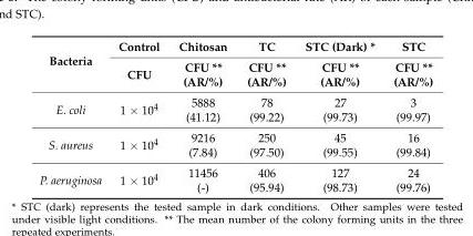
<table><thead><tr><td rowspan="2">Bacteria</td><td rowspan="2">Control CFU</td><td rowspan="2">Chitosan CFU ** (AR/%)</td><td rowspan="2">TC CFU ** (AR/%)</td><td rowspan="2">STC (Dark) * CFU ** (AR/%)</td><td rowspan="2">STC CFU ** (AR/%)</td></tr><tr></tr></thead><tbody><tr><td>E. coli</td><td>1 × 10<sup>4</sup></td><td>5888 (41.12)</td><td>78 (99.22)</td><td>27 (99.73)</td><td>3 (99.97)</td></tr><tr><td>S. aureus</td><td>1 × 10<sup>4</sup></td><td>9216 (7.84)</td><td>250 (97.50)</td><td>45 (99.55)</td><td>16 (99.84)</td></tr><tr><td>P. aeruginosa</td><td>1 × 10<sup>4</sup></td><td>11456 (-)</td><td>406 (95.94)</td><td>127 (98.73)</td><td>24 (99.76)</td></tr></tbody></table>